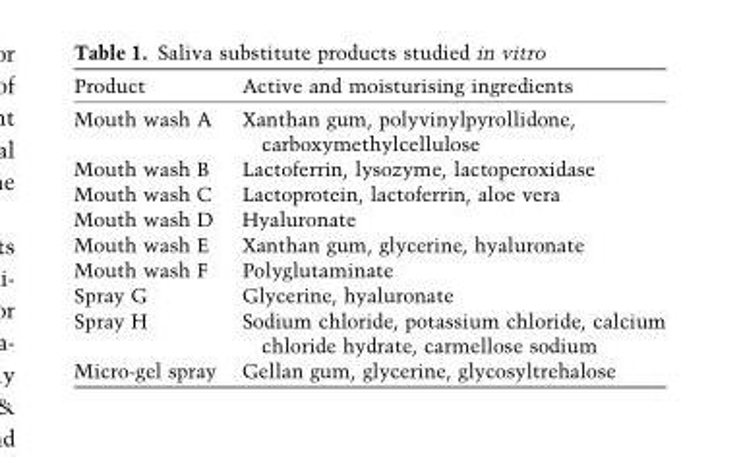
<table><thead><tr><td>Product</td><td>Active and moisturising ingredients</td></tr></thead><tbody><tr><td>Mouth wash A</td><td>Xanthan gum, polyvinylpyrollidone, carboxymethylcellulose</td></tr><tr><td>Mouth wash B</td><td>Lactoferrin, lysozyme, lactoperoxidase</td></tr><tr><td>Mouth wash C</td><td>Lactoprotein, lactoferrin, aloe vera</td></tr><tr><td>Mouth wash D</td><td>Hyaluronate</td></tr><tr><td>Mouth wash E</td><td>Xanthan gum, glycerine, hyaluronate</td></tr><tr><td>Mouth wash F</td><td>Polyglutaminate</td></tr><tr><td>Spray G</td><td>Glycerine, hyaluronate</td></tr><tr><td>Spray H</td><td>Sodium chloride, potassium chloride, calcium chloride hydrate, carmellose sodium</td></tr><tr><td>Micro-gel spray</td><td>Gellan gum, glycerine, glycosyltrehalose</td></tr></tbody></table>